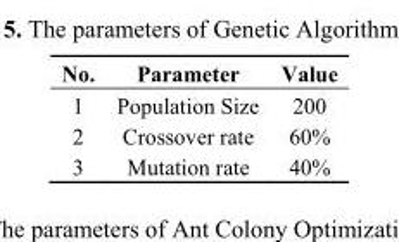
<table><thead><tr><td>No.</td><td>Parameter</td><td>Value</td></tr></thead><tbody><tr><td>1</td><td>Population Size</td><td>200</td></tr><tr><td>2</td><td>Crossover rate</td><td>60%</td></tr><tr><td>3</td><td>Mutation rate</td><td>40%</td></tr></tbody></table>